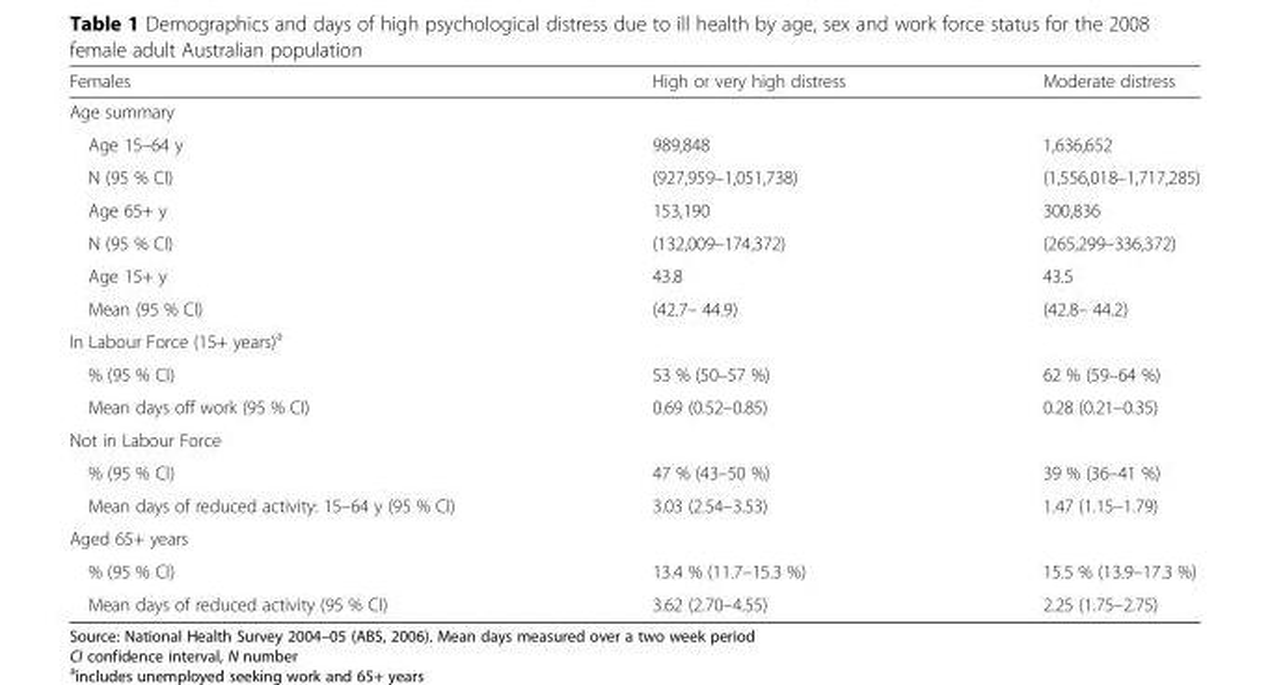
<table><thead><tr><td>Females</td><td>High or very high distress</td><td>Moderate distress</td></tr></thead><tbody><tr><td colspan="3">Age summary</td></tr><tr><td>Age 15–64 y</td><td>989,848</td><td>1,636,652</td></tr><tr><td>N (95 % CI)</td><td>(927,959–1,051,738)</td><td>(1,556,018–1,717,285)</td></tr><tr><td>Age 65+ y</td><td>153,190</td><td>300,836</td></tr><tr><td>N (95 % CI)</td><td>(132,009–174,372)</td><td>(265,299–336,372)</td></tr><tr><td>Age 15+ y</td><td>43.8</td><td>43.5</td></tr><tr><td>Mean (95 % CI)</td><td>(42.7– 44.9)</td><td>(42.8– 44.2)</td></tr><tr><td colspan="3">In Labour Force (15+ years)<sup>a</sup></td></tr><tr><td>% (95 % CI)</td><td>53 % (50–57 %)</td><td>62 % (59–64 %)</td></tr><tr><td>Mean days off work (95 % CI)</td><td>0.69 (0.52–0.85)</td><td>0.28 (0.21–0.35)</td></tr><tr><td colspan="3">Not in Labour Force</td></tr><tr><td>% (95 % CI)</td><td>47 % (43–50 %)</td><td>39 % (36–41 %)</td></tr><tr><td>Mean days of reduced activity: 15–64 y (95 % CI)</td><td>3.03 (2.54–3.53)</td><td>1.47 (1.15–1.79)</td></tr><tr><td colspan="3">Aged 65+ years</td></tr><tr><td>% (95 % CI)</td><td>13.4 % (11.7–15.3 %)</td><td>15.5 % (13.9–17.3 %)</td></tr><tr><td>Mean days of reduced activity (95 % CI)</td><td>3.62 (2.70–4.55)</td><td>2.25 (1.75–2.75)</td></tr></tbody></table>